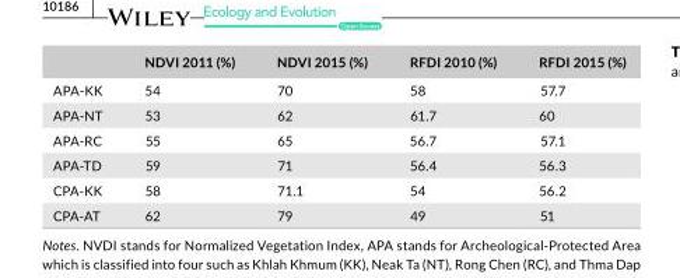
<table><thead><tr><td></td><td>NDVI 2011 (%)</td><td>NDVI 2015 (%)</td><td>RFDI 2010 (%)</td><td>RFDI 2015 (%)</td></tr></thead><tbody><tr><td>APA- KK</td><td>54</td><td>70</td><td>58</td><td>57.7</td></tr><tr><td>APA- NT</td><td>53</td><td>62</td><td>61.7</td><td>60</td></tr><tr><td>APA- RC</td><td>55</td><td>65</td><td>56.7</td><td>57.1</td></tr><tr><td>APA- TD</td><td>59</td><td>71</td><td>56.4</td><td>56.3</td></tr><tr><td>CPA- KK</td><td>58</td><td>71.1</td><td>54</td><td>56.2</td></tr><tr><td>CPA- AT</td><td>62</td><td>79</td><td>49</td><td>51</td></tr></tbody></table>